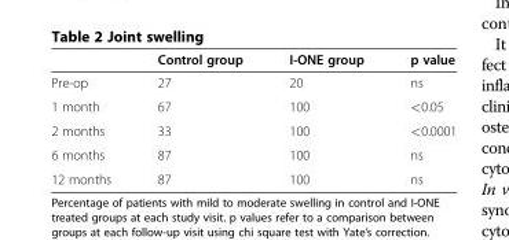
<table><thead><tr><td></td><td>Control group</td><td>I-ONE group</td><td>p value</td></tr></thead><tbody><tr><td>Pre-op</td><td>27</td><td>20</td><td>ns</td></tr><tr><td>1 month</td><td>67</td><td>100</td><td>&lt;0.05</td></tr><tr><td>2 months</td><td>33</td><td>100</td><td>&lt;0.0001</td></tr><tr><td>6 months</td><td>87</td><td>100</td><td>ns</td></tr><tr><td>12 months</td><td>87</td><td>100</td><td>ns</td></tr></tbody></table>